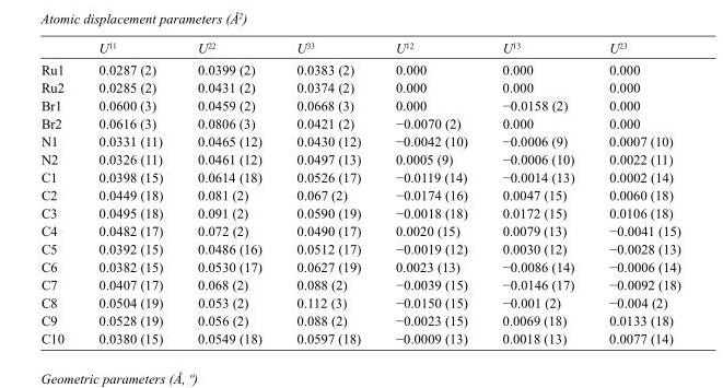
<table><thead><tr><td></td><td>U<sup>11</sup></td><td>U<sup>22</sup></td><td>U<sup>33</sup></td><td>U<sup>12</sup></td><td>U<sup>13</sup></td><td>U<sup>23</sup></td></tr></thead><tbody><tr><td>Ru1</td><td>0.0287 (2)</td><td>0.0399 (2)</td><td>0.0383 (2)</td><td>0.000</td><td>0.000</td><td>0.000</td></tr><tr><td>Ru2</td><td>0.0285 (2)</td><td>0.0431 (2)</td><td>0.0374 (2)</td><td>0.000</td><td>0.000</td><td>0.000</td></tr><tr><td>Br1</td><td>0.0600 (3)</td><td>0.0459 (2)</td><td>0.0668 (3)</td><td>0.000</td><td>−0.0158 (2)</td><td>0.000</td></tr><tr><td>Br2</td><td>0.0616 (3)</td><td>0.0806 (3)</td><td>0.0421 (2)</td><td>−0.0070 (2)</td><td>0.000</td><td>0.000</td></tr><tr><td>N1</td><td>0.0331 (11)</td><td>0.0465 (12)</td><td>0.0430 (12)</td><td>−0.0042 (10)</td><td>−0.0006 (9)</td><td>0.0007 (10)</td></tr><tr><td>N2</td><td>0.0326 (11)</td><td>0.0461 (12)</td><td>0.0497 (13)</td><td>0.0005 (9)</td><td>−0.0006 (10)</td><td>0.0022 (11)</td></tr><tr><td>C1</td><td>0.0398 (15)</td><td>0.0614 (18)</td><td>0.0526 (17)</td><td>−0.0119 (14)</td><td>−0.0014 (13)</td><td>0.0002 (14)</td></tr><tr><td>C2</td><td>0.0449 (18)</td><td>0.081 (2)</td><td>0.067 (2)</td><td>−0.0174 (16)</td><td>0.0047 (15)</td><td>0.0060 (18)</td></tr><tr><td>C3</td><td>0.0495 (18)</td><td>0.091 (2)</td><td>0.0590 (19)</td><td>−0.0018 (18)</td><td>0.0172 (15)</td><td>0.0106 (18)</td></tr><tr><td>C4</td><td>0.0482 (17)</td><td>0.072 (2)</td><td>0.0490 (17)</td><td>0.0020 (15)</td><td>0.0079 (13)</td><td>−0.0041 (15)</td></tr><tr><td>C5</td><td>0.0392 (15)</td><td>0.0486 (16)</td><td>0.0512 (17)</td><td>−0.0019 (12)</td><td>0.0030 (12)</td><td>−0.0028 (13)</td></tr><tr><td>C6</td><td>0.0382 (15)</td><td>0.0530 (17)</td><td>0.0627 (19)</td><td>0.0023 (13)</td><td>−0.0086 (14)</td><td>−0.0006 (14)</td></tr><tr><td>C7</td><td>0.0407 (17)</td><td>0.068 (2)</td><td>0.088 (2)</td><td>−0.0039 (15)</td><td>−0.0146 (17)</td><td>−0.0092 (18)</td></tr><tr><td>C8</td><td>0.0504 (19)</td><td>0.053 (2)</td><td>0.112 (3)</td><td>−0.0150 (15)</td><td>−0.001 (2)</td><td>−0.004 (2)</td></tr><tr><td>C9</td><td>0.0528 (19)</td><td>0.056 (2)</td><td>0.088 (2)</td><td>−0.0023 (15)</td><td>0.0069 (18)</td><td>0.0133 (18)</td></tr><tr><td>C10</td><td>0.0380 (15)</td><td>0.0549 (18)</td><td>0.0597 (18)</td><td>−0.0009 (13)</td><td>0.0018 (13)</td><td>0.0077 (14)</td></tr></tbody></table>